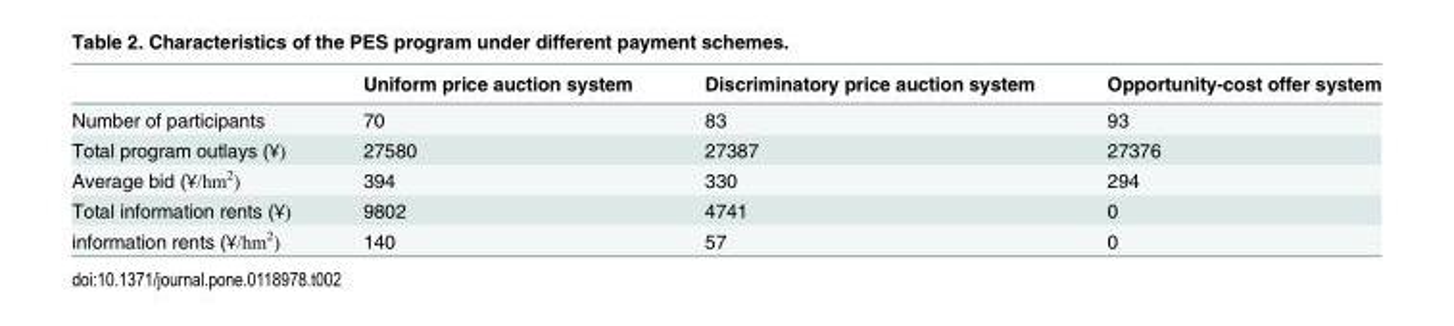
<table><thead><tr><td></td><td>Uniform price auction system</td><td>Discriminatory price auction system</td><td>Opportunity-cost offer system</td></tr></thead><tbody><tr><td>Number of participants</td><td>70</td><td>83</td><td>93</td></tr><tr><td>Total program outlays (Ұ)</td><td>27580</td><td>27387</td><td>27376</td></tr><tr><td>Average bid (Ұ/hm<sup>2</sup>)</td><td>394</td><td>330</td><td>294</td></tr><tr><td>Total information rents (Ұ)</td><td>9802</td><td>4741</td><td>0</td></tr><tr><td>information rents (Ұ/hm<sup>2</sup>)</td><td>140</td><td>57</td><td>0</td></tr></tbody></table>